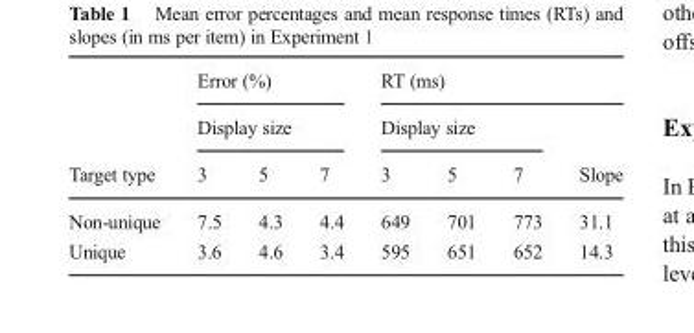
<table><thead><tr><td rowspan="3">Target type</td><td rowspan="2" colspan="3">Error (%) Display size</td><td colspan="4">RT (ms)</td></tr><tr><td colspan="3">Display size</td><td rowspan="2">Slope</td></tr><tr><td>3</td><td>5</td><td>7</td><td>3</td><td>5</td><td>7</td></tr></thead><tbody><tr><td>Non-unique</td><td>7.5</td><td>4.3</td><td>4.4</td><td>649</td><td>701</td><td>773</td><td>31.1</td></tr><tr><td>Unique</td><td>3.6</td><td>4.6</td><td>3.4</td><td>595</td><td>651</td><td>652</td><td>14.3</td></tr></tbody></table>